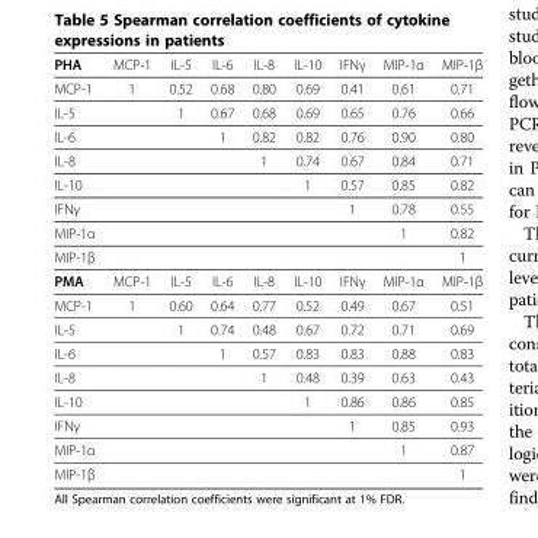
<table><tbody><tr><td>PHA</td><td>MCP-1</td><td>IL-5</td><td>IL-6</td><td>IL-8</td><td>IL-10</td><td>IFNγ</td><td>MIP-1α</td><td>MIP-1β</td></tr><tr><td>MCP-1</td><td>1</td><td>0.52</td><td>0.68</td><td>0.80</td><td>0.69</td><td>0.41</td><td>0.61</td><td>0.71</td></tr><tr><td>IL-5</td><td></td><td>1</td><td>0.67</td><td>0.68</td><td>0.69</td><td>0.65</td><td>0.76</td><td>0.66</td></tr><tr><td>IL-6</td><td></td><td></td><td>1</td><td>0.82</td><td>0.82</td><td>0.76</td><td>0.90</td><td>0.80</td></tr><tr><td>IL-8</td><td></td><td></td><td></td><td>1</td><td>0.74</td><td>0.67</td><td>0.84</td><td>0.71</td></tr><tr><td>IL-10</td><td></td><td></td><td></td><td></td><td>1</td><td>0.57</td><td>0.85</td><td>0.82</td></tr><tr><td>IFNγ</td><td></td><td></td><td></td><td></td><td></td><td>1</td><td>0.78</td><td>0.55</td></tr><tr><td>MIP-1α</td><td></td><td></td><td></td><td></td><td></td><td></td><td>1</td><td>0.82</td></tr><tr><td>MIP-1β</td><td></td><td></td><td></td><td></td><td></td><td></td><td></td><td>1</td></tr><tr><td>PMA</td><td>MCP-1</td><td>IL-5</td><td>IL-6</td><td>IL-8</td><td>IL-10</td><td>IFNγ</td><td>MIP-1α</td><td>MIP-1β</td></tr><tr><td>MCP-1</td><td>1</td><td>0.60</td><td>0.64</td><td>0.77</td><td>0.52</td><td>0.49</td><td>0.67</td><td>0.51</td></tr><tr><td>IL-5</td><td></td><td>1</td><td>0.74</td><td>0.48</td><td>0.67</td><td>0.72</td><td>0.71</td><td>0.69</td></tr><tr><td>IL-6</td><td></td><td></td><td>1</td><td>0.57</td><td>0.83</td><td>0.83</td><td>0.88</td><td>0.83</td></tr><tr><td>IL-8</td><td></td><td></td><td></td><td>1</td><td>0.48</td><td>0.39</td><td>0.63</td><td>0.43</td></tr><tr><td>IL-10</td><td></td><td></td><td></td><td></td><td>1</td><td>0.86</td><td>0.86</td><td>0.85</td></tr><tr><td>IFNγ</td><td></td><td></td><td></td><td></td><td></td><td>1</td><td>0.85</td><td>0.93</td></tr><tr><td>MIP-1α</td><td></td><td></td><td></td><td></td><td></td><td></td><td>1</td><td>0.87</td></tr><tr><td>MIP-1β</td><td></td><td></td><td></td><td></td><td></td><td></td><td></td><td>1</td></tr></tbody></table>